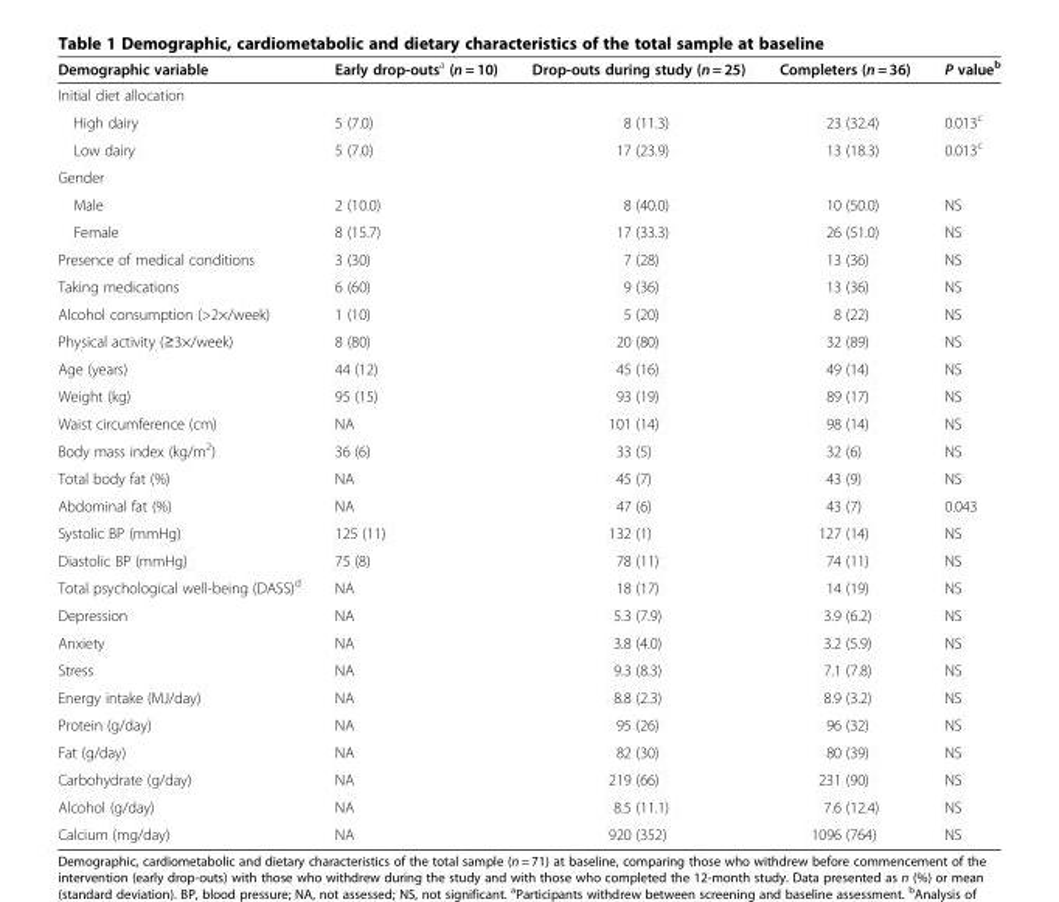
<table><thead><tr><td>Demographic variable</td><td>Early drop-outs<sup>a</sup> (n = 10)</td><td>Drop-outs during study (n = 25)</td><td>Completers (n = 36)</td><td>P value<sup>b</sup></td></tr></thead><tbody><tr><td colspan="5">Initial diet allocation</td></tr><tr><td>High dairy</td><td>5 (7.0)</td><td>8 (11.3)</td><td>23 (32.4)</td><td>0.013<sup>c</sup></td></tr><tr><td>Low dairy</td><td>5 (7.0)</td><td>17 (23.9)</td><td>13 (18.3)</td><td>0.013<sup>c</sup></td></tr><tr><td colspan="5">Gender</td></tr><tr><td>Male</td><td>2 (10.0)</td><td>8 (40.0)</td><td>10 (50.0)</td><td>NS</td></tr><tr><td>Female</td><td>8 (15.7)</td><td>17 (33.3)</td><td>26 (51.0)</td><td>NS</td></tr><tr><td>Presence of medical conditions</td><td>3 (30)</td><td>7 (28)</td><td>13 (36)</td><td>NS</td></tr><tr><td>Taking medications</td><td>6 (60)</td><td>9 (36)</td><td>13 (36)</td><td>NS</td></tr><tr><td>Alcohol consumption (&gt;2×/week)</td><td>1 (10)</td><td>5 (20)</td><td>8 (22)</td><td>NS</td></tr><tr><td>Physical activity (≥3×/week)</td><td>8 (80)</td><td>20 (80)</td><td>32 (89)</td><td>NS</td></tr><tr><td>Age (years)</td><td>44 (12)</td><td>45 (16)</td><td>49 (14)</td><td>NS</td></tr><tr><td>Weight (kg)</td><td>95 (15)</td><td>93 (19)</td><td>89 (17)</td><td>NS</td></tr><tr><td>Waist circumference (cm)</td><td>NA</td><td>101 (14)</td><td>98 (14)</td><td>NS</td></tr><tr><td>Body mass index (kg/m<sup>2</sup>)</td><td>36 (6)</td><td>33 (5)</td><td>32 (6)</td><td>NS</td></tr><tr><td>Total body fat (%)</td><td>NA</td><td>45 (7)</td><td>43 (9)</td><td>NS</td></tr><tr><td>Abdominal fat (%)</td><td>NA</td><td>47 (6)</td><td>43 (7)</td><td>0.043</td></tr><tr><td>Systolic BP (mmHg)</td><td>125 (11)</td><td>132 (1)</td><td>127 (14)</td><td>NS</td></tr><tr><td>Diastolic BP (mmHg)</td><td>75 (8)</td><td>78 (11)</td><td>74 (11)</td><td>NS</td></tr><tr><td>Total psychological well-being (DASS)<sup>d</sup></td><td>NA</td><td>18 (17)</td><td>14 (19)</td><td>NS</td></tr><tr><td>Depression</td><td>NA</td><td>5.3 (7.9)</td><td>3.9 (6.2)</td><td>NS</td></tr><tr><td>Anxiety</td><td>NA</td><td>3.8 (4.0)</td><td>3.2 (5.9)</td><td>NS</td></tr><tr><td>Stress</td><td>NA</td><td>9.3 (8.3)</td><td>7.1 (7.8)</td><td>NS</td></tr><tr><td>Energy intake (MJ/day)</td><td>NA</td><td>8.8 (2.3)</td><td>8.9 (3.2)</td><td>NS</td></tr><tr><td>Protein (g/day)</td><td>NA</td><td>95 (26)</td><td>96 (32)</td><td>NS</td></tr><tr><td>Fat (g/day)</td><td>NA</td><td>82 (30)</td><td>80 (39)</td><td>NS</td></tr><tr><td>Carbohydrate (g/day)</td><td>NA</td><td>219 (66)</td><td>231 (90)</td><td>NS</td></tr><tr><td>Alcohol (g/day)</td><td>NA</td><td>8.5 (11.1)</td><td>7.6 (12.4)</td><td>NS</td></tr><tr><td>Calcium (mg/day)</td><td>NA</td><td>920 (352)</td><td>1096 (764)</td><td>NS</td></tr></tbody></table>